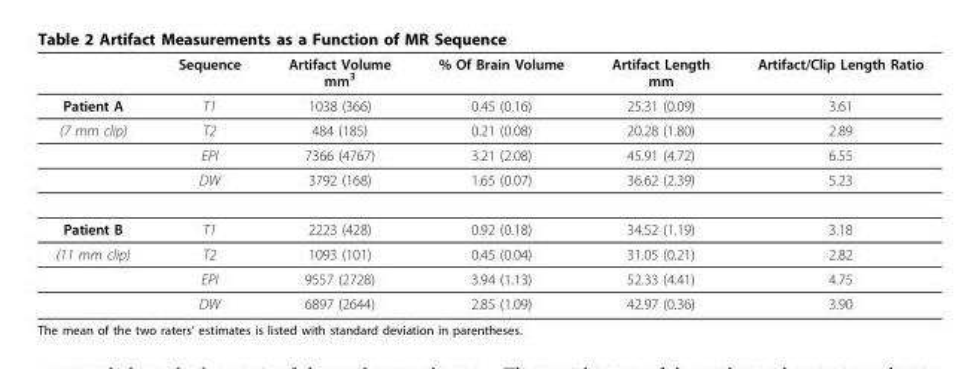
<table><thead><tr><td></td><td>Sequence</td><td>Artifact Volume mm3</td><td>% Of Brain Volume</td><td>Artifact Length mm</td><td>Artifact/Clip Length Ratio</td></tr></thead><tbody><tr><td>Patient A</td><td>T1</td><td>1038 (366)</td><td>0.45 (0.16)</td><td>25.31 (0.09)</td><td>3.61</td></tr><tr><td rowspan="3">(7 mm clip)</td><td>T2</td><td>484 (185)</td><td>0.21 (0.08)</td><td>20.28 (1.80)</td><td>2.89</td></tr><tr><td>EPI</td><td>7366 (4767)</td><td>3.21 (2.08)</td><td>45.91 (4.72)</td><td>6.55</td></tr><tr><td>DW</td><td>3792 (168)</td><td>1.65 (0.07)</td><td>36.62 (2.39)</td><td>5.23</td></tr><tr><td>Patient B</td><td>T1</td><td>2223 (428)</td><td>0.92 (0.18)</td><td>34.52 (1.19)</td><td>3.18</td></tr><tr><td rowspan="3">(11 mm clip)</td><td>T2</td><td>1093 (101)</td><td>0.45 (0.04)</td><td>31.05 (0.21)</td><td>2.82</td></tr><tr><td>EPI</td><td>9557 (2728)</td><td>3.94 (1.13)</td><td>52.33 (4.41)</td><td>4.75</td></tr><tr><td>DW</td><td>6897 (2644)</td><td>2.85 (1.09)</td><td>42.97 (0.36)</td><td>3.90</td></tr></tbody></table>